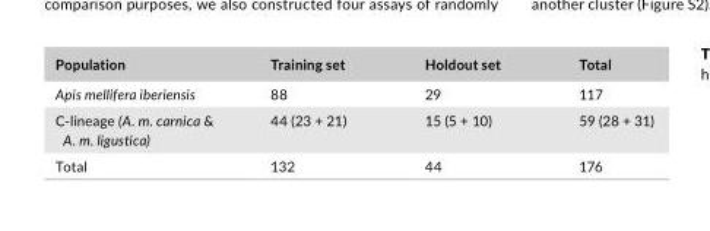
<table><thead><tr><td>Population</td><td>Training set</td><td>Holdout set</td><td>Total</td></tr></thead><tbody><tr><td>Apis mellifera iberiensis</td><td>88</td><td>29</td><td>117</td></tr><tr><td>C- lineage (A. m. carnica &amp; A. m. ligustica)</td><td>44 (23 + 21)</td><td>15 (5 + 10)</td><td>59 (28 + 31)</td></tr><tr><td>Total</td><td>132</td><td>44</td><td>176</td></tr></tbody></table>